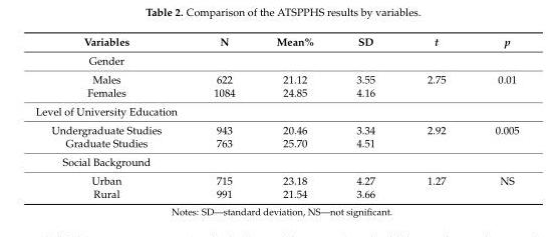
<table><thead><tr><td>Variables</td><td>N</td><td>Mean%</td><td>SD</td><td>t</td><td>p</td></tr></thead><tbody><tr><td colspan="6">Gender</td></tr><tr><td>Males</td><td>622</td><td>21.12</td><td>3.55</td><td>2.75</td><td>0.01</td></tr><tr><td>Females</td><td>1084</td><td>24.85</td><td>4.16</td><td></td><td></td></tr><tr><td colspan="6">Level of University Education</td></tr><tr><td>Undergraduate Studies</td><td>943</td><td>20.46</td><td>3.34</td><td>2.92</td><td>0.005</td></tr><tr><td>Graduate Studies</td><td>763</td><td>25.70</td><td>4.51</td><td></td><td></td></tr><tr><td colspan="6">Social Background</td></tr><tr><td>Urban</td><td>715</td><td>23.18</td><td>4.27</td><td>1.27</td><td>NS</td></tr><tr><td>Rural</td><td>991</td><td>21.54</td><td>3.66</td><td></td><td></td></tr></tbody></table>